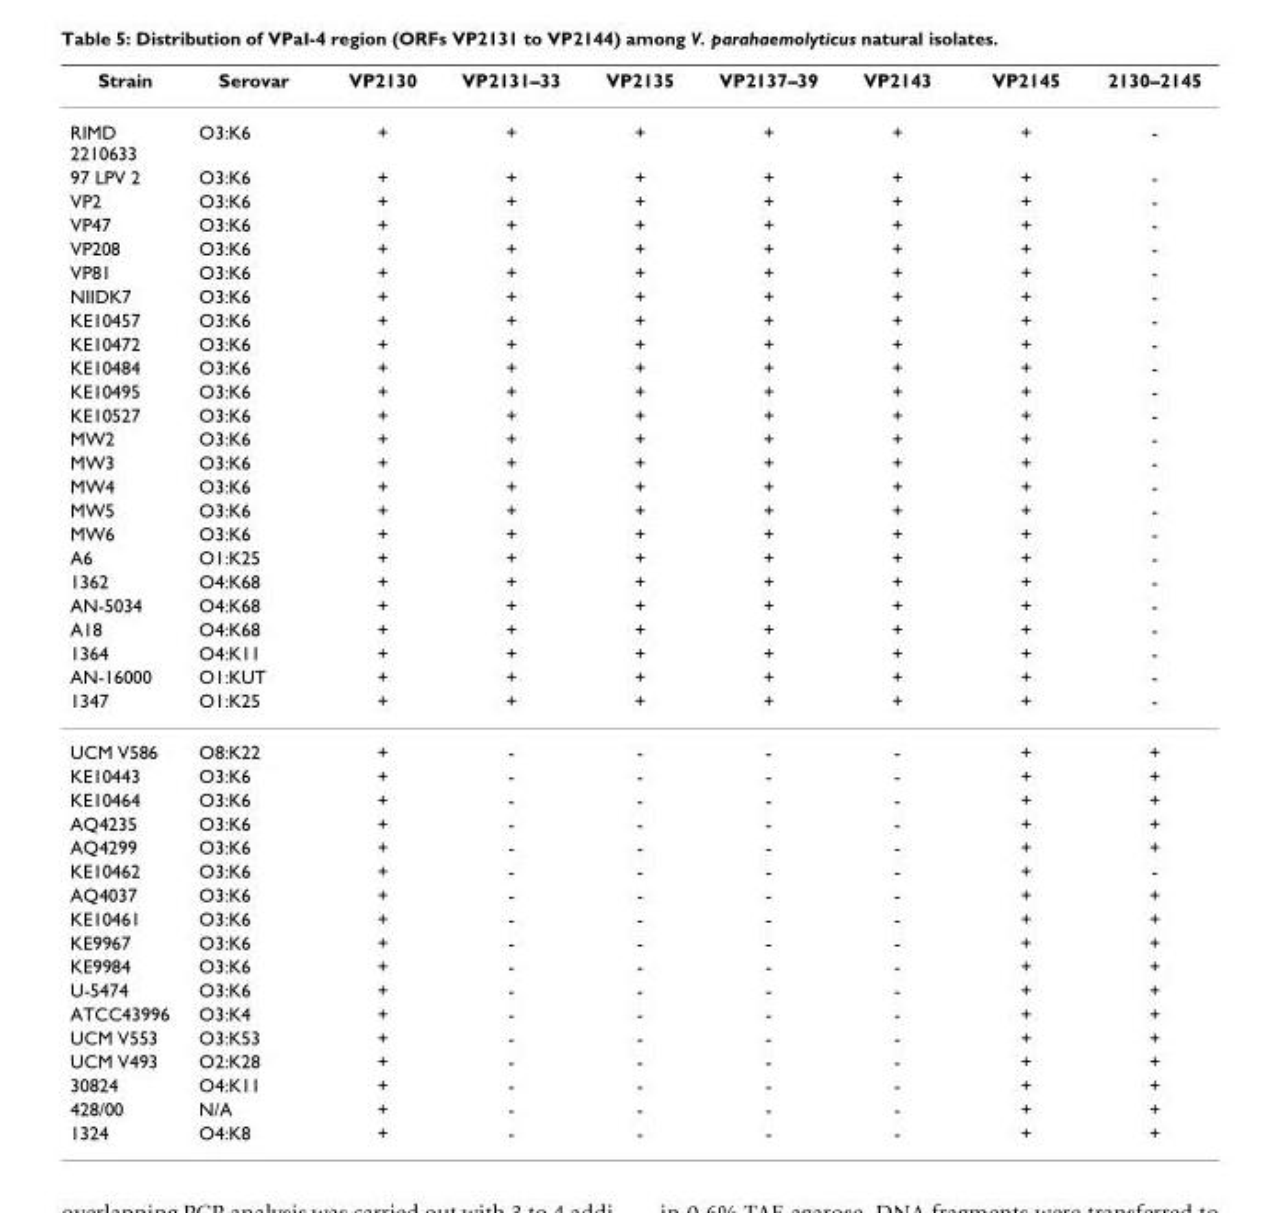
<table><thead><tr><td>Strain</td><td>Serovar</td><td>VP2130</td><td>VP2131–33</td><td>VP2135</td><td>VP2137–39</td><td>VP2143</td><td>VP2145</td><td>2130–2145</td></tr></thead><tbody><tr><td>RIMD 2210633</td><td>O3:K6</td><td>+</td><td>+</td><td>+</td><td>+</td><td>+</td><td>+</td><td>-</td></tr><tr><td>97 LPV 2</td><td>O3:K6</td><td>+</td><td>+</td><td>+</td><td>+</td><td>+</td><td>+</td><td>-</td></tr><tr><td>VP2</td><td>O3:K6</td><td>+</td><td>+</td><td>+</td><td>+</td><td>+</td><td>+</td><td>-</td></tr><tr><td>VP47</td><td>O3:K6</td><td>+</td><td>+</td><td>+</td><td>+</td><td>+</td><td>+</td><td>-</td></tr><tr><td>VP208</td><td>O3:K6</td><td>+</td><td>+</td><td>+</td><td>+</td><td>+</td><td>+</td><td>-</td></tr><tr><td>VP81</td><td>O3:K6</td><td>+</td><td>+</td><td>+</td><td>+</td><td>+</td><td>+</td><td>-</td></tr><tr><td>NIIDK7</td><td>O3:K6</td><td>+</td><td>+</td><td>+</td><td>+</td><td>+</td><td>+</td><td>-</td></tr><tr><td>KE10457</td><td>O3:K6</td><td>+</td><td>+</td><td>+</td><td>+</td><td>+</td><td>+</td><td>-</td></tr><tr><td>KE10472</td><td>O3:K6</td><td>+</td><td>+</td><td>+</td><td>+</td><td>+</td><td>+</td><td>-</td></tr><tr><td>KE10484</td><td>O3:K6</td><td>+</td><td>+</td><td>+</td><td>+</td><td>+</td><td>+</td><td>-</td></tr><tr><td>KE10495</td><td>O3:K6</td><td>+</td><td>+</td><td>+</td><td>+</td><td>+</td><td>+</td><td>-</td></tr><tr><td>KE10527</td><td>O3:K6</td><td>+</td><td>+</td><td>+</td><td>+</td><td>+</td><td>+</td><td>-</td></tr><tr><td>MW2</td><td>O3:K6</td><td>+</td><td>+</td><td>+</td><td>+</td><td>+</td><td>+</td><td>-</td></tr><tr><td>MW3</td><td>O3:K6</td><td>+</td><td>+</td><td>+</td><td>+</td><td>+</td><td>+</td><td>-</td></tr><tr><td>MW4</td><td>O3:K6</td><td>+</td><td>+</td><td>+</td><td>+</td><td>+</td><td>+</td><td>-</td></tr><tr><td>MW5</td><td>O3:K6</td><td>+</td><td>+</td><td>+</td><td>+</td><td>+</td><td>+</td><td>-</td></tr><tr><td>MW6</td><td>O3:K6</td><td>+</td><td>+</td><td>+</td><td>+</td><td>+</td><td>+</td><td>-</td></tr><tr><td>A6</td><td>O1:K25</td><td>+</td><td>+</td><td>+</td><td>+</td><td>+</td><td>+</td><td>-</td></tr><tr><td>1362</td><td>O4:K68</td><td>+</td><td>+</td><td>+</td><td>+</td><td>+</td><td>+</td><td>-</td></tr><tr><td>AN-5034</td><td>O4:K68</td><td>+</td><td>+</td><td>+</td><td>+</td><td>+</td><td>+</td><td>-</td></tr><tr><td>A18</td><td>O4:K68</td><td>+</td><td>+</td><td>+</td><td>+</td><td>+</td><td>+</td><td>-</td></tr><tr><td>1364</td><td>O4:K11</td><td>+</td><td>+</td><td>+</td><td>+</td><td>+</td><td>+</td><td>-</td></tr><tr><td>AN-16000</td><td>O1:KUT</td><td>+</td><td>+</td><td>+</td><td>+</td><td>+</td><td>+</td><td>-</td></tr><tr><td>1347</td><td>O1:K25</td><td>+</td><td>+</td><td>+</td><td>+</td><td>+</td><td>+</td><td>-</td></tr><tr><td>UCM V586</td><td>O8:K22</td><td>+</td><td>-</td><td>-</td><td>-</td><td>-</td><td>+</td><td>+</td></tr><tr><td>KE10443</td><td>O3:K6</td><td>+</td><td>-</td><td>-</td><td>-</td><td>-</td><td>+</td><td>+</td></tr><tr><td>KE10464</td><td>O3:K6</td><td>+</td><td>-</td><td>-</td><td>-</td><td>-</td><td>+</td><td>+</td></tr><tr><td>AQ4235</td><td>O3:K6</td><td>+</td><td>-</td><td>-</td><td>-</td><td>-</td><td>+</td><td>+</td></tr><tr><td>AQ4299</td><td>O3:K6</td><td>+</td><td>-</td><td>-</td><td>-</td><td>-</td><td>+</td><td>+</td></tr><tr><td>KE10462</td><td>O3:K6</td><td>+</td><td>-</td><td>-</td><td>-</td><td>-</td><td>+</td><td>-</td></tr><tr><td>AQ4037</td><td>O3:K6</td><td>+</td><td>-</td><td>-</td><td>-</td><td>-</td><td>+</td><td>+</td></tr><tr><td>KE10461</td><td>O3:K6</td><td>+</td><td>-</td><td>-</td><td>-</td><td>-</td><td>+</td><td>+</td></tr><tr><td>KE9967</td><td>O3:K6</td><td>+</td><td>-</td><td>-</td><td>-</td><td>-</td><td>+</td><td>+</td></tr><tr><td>KE9984</td><td>O3:K6</td><td>+</td><td>-</td><td>-</td><td>-</td><td>-</td><td>+</td><td>+</td></tr><tr><td>U-5474</td><td>O3:K6</td><td>+</td><td>-</td><td>-</td><td>-</td><td>-</td><td>+</td><td>+</td></tr><tr><td>ATCC43996</td><td>O3:K4</td><td>+</td><td>-</td><td>-</td><td>-</td><td>-</td><td>+</td><td>+</td></tr><tr><td>UCM V553</td><td>O3:K53</td><td>+</td><td>-</td><td>-</td><td>-</td><td>-</td><td>+</td><td>+</td></tr><tr><td>UCM V493</td><td>O2:K28</td><td>+</td><td>-</td><td>-</td><td>-</td><td>-</td><td>+</td><td>+</td></tr><tr><td>30824</td><td>O4:K11</td><td>+</td><td>-</td><td>-</td><td>-</td><td>-</td><td>+</td><td>+</td></tr><tr><td>428/00</td><td>N/A</td><td>+</td><td>-</td><td>-</td><td>-</td><td>-</td><td>+</td><td>+</td></tr><tr><td>1324</td><td>O4:K8</td><td>+</td><td>-</td><td>-</td><td>-</td><td>-</td><td>+</td><td>+</td></tr></tbody></table>